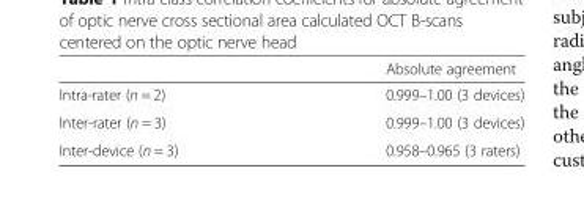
<table><thead><tr><td></td><td>Absolute agreement</td></tr></thead><tbody><tr><td>Intra-rater (n = 2)</td><td>0.999–1.00 (3 devices)</td></tr><tr><td>Inter-rater (n = 3)</td><td>0.999–1.00 (3 devices)</td></tr><tr><td>Inter-device (n = 3)</td><td>0.958–0.965 (3 raters)</td></tr></tbody></table>